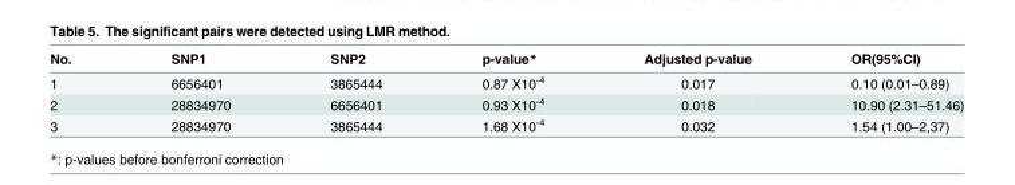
<table><thead><tr><td>No.</td><td>SNP1</td><td>SNP2</td><td>p-value*</td><td>Adjusted p-value</td><td>OR(95%CI)</td></tr></thead><tbody><tr><td>1</td><td>6656401</td><td>3865444</td><td>0.87 X10<sup>-4</sup></td><td>0.017</td><td>0.10 (0.01–0.89)</td></tr><tr><td>2</td><td>28834970</td><td>6656401</td><td>0.93 X10<sup>-4</sup></td><td>0.018</td><td>10.90 (2.31–51.46)</td></tr><tr><td>3</td><td>28834970</td><td>3865444</td><td>1.68 X10<sup>-4</sup></td><td>0.032</td><td>1.54 (1.00–2,37)</td></tr></tbody></table>